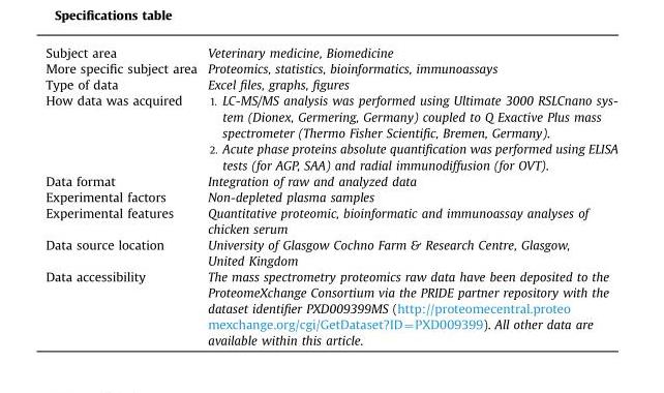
<table><tbody><tr><td>Subject area</td><td>Veterinary medicine, Biomedicine</td></tr><tr><td>More specific subject area</td><td>Proteomics, statistics, bioinformatics, immunoassays</td></tr><tr><td>Type of data</td><td>Excel files, graphs, figures</td></tr><tr><td>How data was acquired</td><td>1. LC-MS/MS analysis was performed using Ultimate 3000 RSLCnano sys- tem (Dionex, Germering, Germany) coupled to Q Exactive Plus mass spectrometer (Thermo Fisher Scientific, Bremen, Germany). 2. Acute phase proteins absolute quantification was performed using ELISA tests (for AGP, SAA) and radial immunodiffusion (for OVT).</td></tr><tr><td>Data format</td><td>Integration of raw and analyzed data</td></tr><tr><td>Experimental factors</td><td>Non-depleted plasma samples</td></tr><tr><td>Experimental features</td><td>Quantitative proteomic, bioinformatic and immunoassay analyses of chicken serum</td></tr><tr><td>Data source location</td><td>University of Glasgow Cochno Farm &amp; Research Centre, Glasgow, United Kingdom</td></tr><tr><td>Data accessibility</td><td>The mass spectrometry proteomics raw data have been deposited to the ProteomeXchange Consortium via the PRIDE partner repository with the dataset identifier PXD009399MS (http://proteomecentral.proteo mexchange.org/cgi/GetDataset?ID=PXD009399). All other data are available within this article.</td></tr></tbody></table>